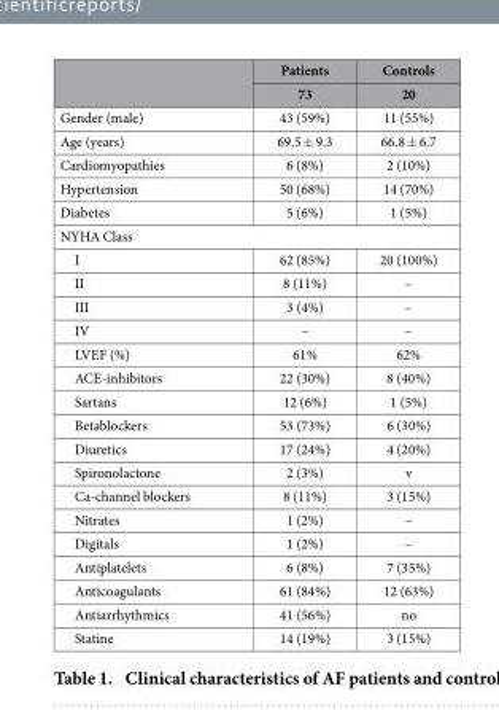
<table><thead><tr><td rowspan="2"></td><td rowspan="2">Patients 73</td><td rowspan="2">Controls 20</td></tr><tr></tr></thead><tbody><tr><td>Gender (male)</td><td>43 (59%)</td><td>11 (55%)</td></tr><tr><td>Age (years)</td><td>69.5 ± 9.3</td><td>66.8 ± 6.7</td></tr><tr><td>Cardiomyopathies</td><td>6 (8%)</td><td>2 (10%)</td></tr><tr><td>Hypertension</td><td>50 (68%)</td><td>14 (70%)</td></tr><tr><td>Diabetes</td><td>5 (6%)</td><td>1 (5%)</td></tr><tr><td colspan="3">NYHA Class</td></tr><tr><td>I</td><td>62 (85%)</td><td>20 (100%)</td></tr><tr><td>II</td><td>8 (11%)</td><td>–</td></tr><tr><td>III</td><td>3 (4%)</td><td>–</td></tr><tr><td>IV</td><td>–</td><td>–</td></tr><tr><td>LVEF (%)</td><td>61%</td><td>62%</td></tr><tr><td>ACE-inhibitors</td><td>22 (30%)</td><td>8 (40%)</td></tr><tr><td>Sartans</td><td>12 (6%)</td><td>1 (5%)</td></tr><tr><td>Betablockers</td><td>53 (73%)</td><td>6 (30%)</td></tr><tr><td>Diuretics</td><td>17 (24%)</td><td>4 (20%)</td></tr><tr><td>Spironolactone</td><td>2 (3%)</td><td>v</td></tr><tr><td>Ca-channel blockers</td><td>8 (11%)</td><td>3 (15%)</td></tr><tr><td>Nitrates</td><td>1 (2%)</td><td>–</td></tr><tr><td>Digitals</td><td>1 (2%)</td><td>–</td></tr><tr><td>Antiplatelets</td><td>6 (8%)</td><td>7 (35%)</td></tr><tr><td>Anticoagulants</td><td>61 (84%)</td><td>12 (63%)</td></tr><tr><td>Antiarrhythmics</td><td>41 (56%)</td><td>no</td></tr><tr><td>Statine</td><td>14 (19%)</td><td>3 (15%)</td></tr></tbody></table>